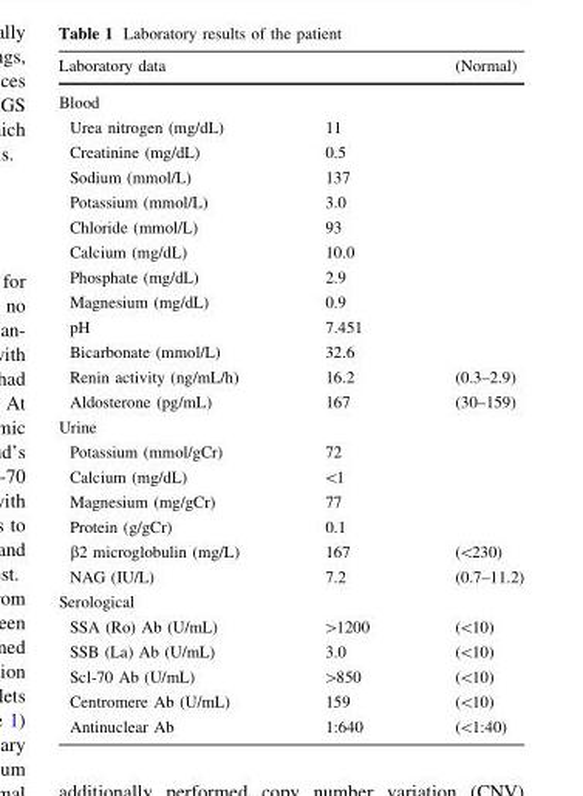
<table><thead><tr><td>Laboratory data</td><td></td><td>(Normal)</td></tr></thead><tbody><tr><td colspan="3">Blood</td></tr><tr><td>Urea nitrogen (mg/dL)</td><td>11</td><td></td></tr><tr><td>Creatinine (mg/dL)</td><td>0.5</td><td></td></tr><tr><td>Sodium (mmol/L)</td><td>137</td><td></td></tr><tr><td>Potassium (mmol/L)</td><td>3.0</td><td></td></tr><tr><td>Chloride (mmol/L)</td><td>93</td><td></td></tr><tr><td>Calcium (mg/dL)</td><td>10.0</td><td></td></tr><tr><td>Phosphate (mg/dL)</td><td>2.9</td><td></td></tr><tr><td>Magnesium (mg/dL)</td><td>0.9</td><td></td></tr><tr><td>pH</td><td>7.451</td><td></td></tr><tr><td>Bicarbonate (mmol/L)</td><td>32.6</td><td></td></tr><tr><td>Renin activity (ng/mL/h)</td><td>16.2</td><td>(0.3–2.9)</td></tr><tr><td>Aldosterone (pg/mL)</td><td>167</td><td>(30–159)</td></tr><tr><td colspan="3">Urine</td></tr><tr><td>Potassium (mmol/gCr)</td><td>72</td><td></td></tr><tr><td>Calcium (mg/dL)</td><td>&lt;1</td><td></td></tr><tr><td>Magnesium (mg/gCr)</td><td>77</td><td></td></tr><tr><td>Protein (g/gCr)</td><td>0.1</td><td></td></tr><tr><td>β2 microglobulin (mg/L)</td><td>167</td><td>(&lt;230)</td></tr><tr><td>NAG (IU/L)</td><td>7.2</td><td>(0.7–11.2)</td></tr><tr><td colspan="3">Serological</td></tr><tr><td>SSA (Ro) Ab (U/mL)</td><td>&gt;1200</td><td>(&lt;10)</td></tr><tr><td>SSB (La) Ab (U/mL)</td><td>3.0</td><td>(&lt;10)</td></tr><tr><td>Scl-70 Ab (U/mL)</td><td>&gt;850</td><td>(&lt;10)</td></tr><tr><td>Centromere Ab (U/mL)</td><td>159</td><td>(&lt;10)</td></tr><tr><td>Antinuclear Ab</td><td>1:640</td><td>(&lt;1:40)</td></tr></tbody></table>